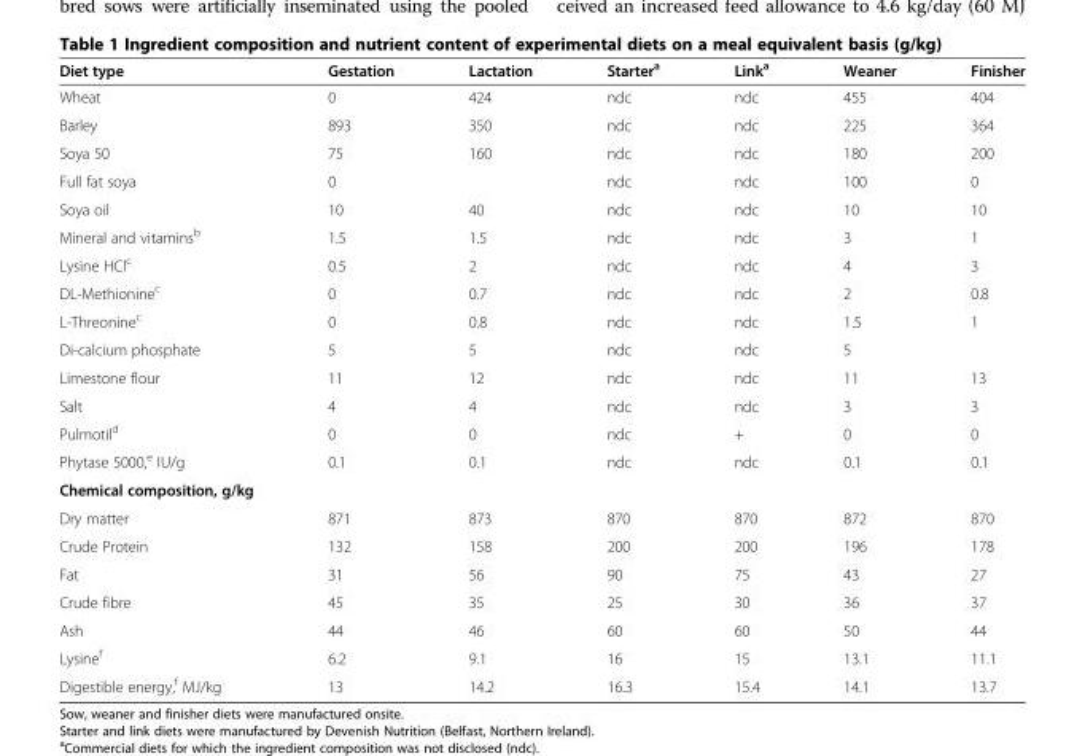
<table><thead><tr><td>Diet type</td><td>Gestation</td><td>Lactation</td><td>Starter<sup>a</sup></td><td>Link<sup>a</sup></td><td>Weaner</td><td>Finisher</td></tr></thead><tbody><tr><td>Wheat</td><td>0</td><td>424</td><td>ndc</td><td>ndc</td><td>455</td><td>404</td></tr><tr><td>Barley</td><td>893</td><td>350</td><td>ndc</td><td>ndc</td><td>225</td><td>364</td></tr><tr><td>Soya 50</td><td>75</td><td>160</td><td>ndc</td><td>ndc</td><td>180</td><td>200</td></tr><tr><td>Full fat soya</td><td>0</td><td></td><td>ndc</td><td>ndc</td><td>100</td><td>0</td></tr><tr><td>Soya oil</td><td>10</td><td>40</td><td>ndc</td><td>ndc</td><td>10</td><td>10</td></tr><tr><td>Mineral and vitamins<sup>b</sup></td><td>1.5</td><td>1.5</td><td>ndc</td><td>ndc</td><td>3</td><td>1</td></tr><tr><td>Lysine HCl<sup>c</sup></td><td>0.5</td><td>2</td><td>ndc</td><td>ndc</td><td>4</td><td>3</td></tr><tr><td>DL-Methionine<sup>c</sup></td><td>0</td><td>0.7</td><td>ndc</td><td>ndc</td><td>2</td><td>0.8</td></tr><tr><td>L-Threonine<sup>c</sup></td><td>0</td><td>0.8</td><td>ndc</td><td>ndc</td><td>1.5</td><td>1</td></tr><tr><td>Di-calcium phosphate</td><td>5</td><td>5</td><td>ndc</td><td>ndc</td><td>5</td><td></td></tr><tr><td>Limestone flour</td><td>11</td><td>12</td><td>ndc</td><td>ndc</td><td>11</td><td>13</td></tr><tr><td>Salt</td><td>4</td><td>4</td><td>ndc</td><td>ndc</td><td>3</td><td>3</td></tr><tr><td>Pulmotil<sup>d</sup></td><td>0</td><td>0</td><td>ndc</td><td>+</td><td>0</td><td>0</td></tr><tr><td>Phytase 5000,<sup>e</sup> IU/g</td><td>0.1</td><td>0.1</td><td>ndc</td><td>ndc</td><td>0.1</td><td>0.1</td></tr><tr><td colspan="7">Chemical composition, g/kg</td></tr><tr><td>Dry matter</td><td>871</td><td>873</td><td>870</td><td>870</td><td>872</td><td>870</td></tr><tr><td>Crude Protein</td><td>132</td><td>158</td><td>200</td><td>200</td><td>196</td><td>178</td></tr><tr><td>Fat</td><td>31</td><td>56</td><td>90</td><td>75</td><td>43</td><td>27</td></tr><tr><td>Crude fibre</td><td>45</td><td>35</td><td>25</td><td>30</td><td>36</td><td>37</td></tr><tr><td>Ash</td><td>44</td><td>46</td><td>60</td><td>60</td><td>50</td><td>44</td></tr><tr><td>Lysine<sup>f</sup></td><td>6.2</td><td>9.1</td><td>16</td><td>15</td><td>13.1</td><td>11.1</td></tr><tr><td>Digestible energy,<sup>f</sup> MJ/kg</td><td>13</td><td>14.2</td><td>16.3</td><td>15.4</td><td>14.1</td><td>13.7</td></tr></tbody></table>